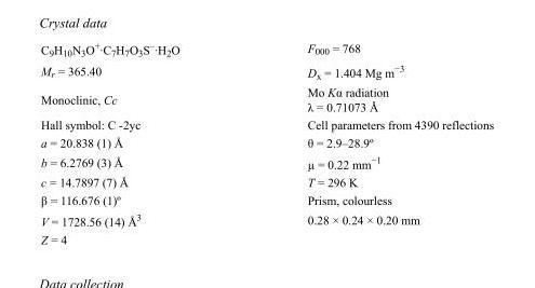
<table><tbody><tr><td>C<sub>9</sub>H<sub>10</sub>N<sub>3</sub>O<sup>+</sup>·C<sub>7</sub>H<sub>7</sub>O<sub>3</sub>S<sup>–</sup>·H<sub>2</sub>O</td><td>F000 = 768</td></tr><tr><td>M<sub>r</sub> = 365.40</td><td>D<sub>x</sub> = 1.404 Mg m<sup>−3</sup></td></tr><tr><td>Monoclinic, Cc</td><td>Mo Kα radiation λ = 0.71073 Å</td></tr><tr><td>Hall symbol: C -2yc</td><td>Cell parameters from 4390 reflections</td></tr><tr><td>a = 20.838 (1) Å</td><td>θ = 2.9–28.9º</td></tr><tr><td>b = 6.2769 (3) Å</td><td>µ = 0.22 mm<sup>−1</sup></td></tr><tr><td>c = 14.7897 (7) Å</td><td>T = 296 K</td></tr><tr><td>β = 116.676 (1)º</td><td>Prism, colourless</td></tr><tr><td>V = 1728.56 (14) Å<sup>3</sup></td><td>0.28 × 0.24 × 0.20 mm</td></tr><tr><td>Z = 4</td><td></td></tr></tbody></table>